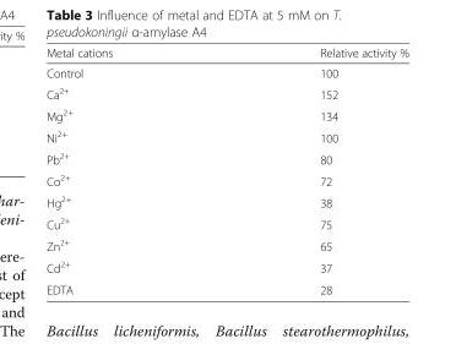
<table><thead><tr><td>Metal cations</td><td>Relative activity %</td></tr></thead><tbody><tr><td>Control</td><td>100</td></tr><tr><td>Ca<sup>2+</sup></td><td>152</td></tr><tr><td>Mg<sup>2+</sup></td><td>134</td></tr><tr><td>Ni<sup>2+</sup></td><td>100</td></tr><tr><td>Pb<sup>2+</sup></td><td>80</td></tr><tr><td>Co<sup>2+</sup></td><td>72</td></tr><tr><td>Hg<sup>2+</sup></td><td>38</td></tr><tr><td>Cu<sup>2+</sup></td><td>75</td></tr><tr><td>Zn<sup>2+</sup></td><td>65</td></tr><tr><td>Cd<sup>2+</sup></td><td>37</td></tr><tr><td>EDTA</td><td>28</td></tr></tbody></table>